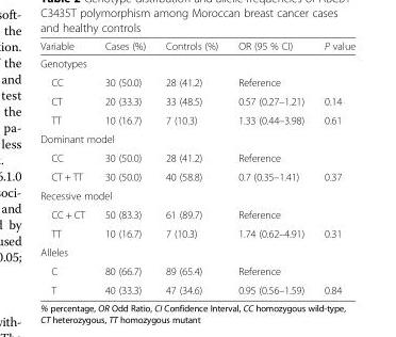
<table><thead><tr><td>Variable</td><td>Cases (%)</td><td>Controls (%)</td><td>OR (95 % CI)</td><td>P value</td></tr></thead><tbody><tr><td colspan="5">Genotypes</td></tr><tr><td>CC</td><td>30 (50.0)</td><td>28 (41.2)</td><td>Reference</td><td></td></tr><tr><td>CT</td><td>20 (33.3)</td><td>33 (48.5)</td><td>0.57 (0.27–1.21)</td><td>0.14</td></tr><tr><td>TT</td><td>10 (16.7)</td><td>7 (10.3)</td><td>1.33 (0.44–3.98)</td><td>0.61</td></tr><tr><td colspan="5">Dominant model</td></tr><tr><td>CC</td><td>30 (50.0)</td><td>28 (41.2)</td><td>Reference</td><td></td></tr><tr><td>CT + TT</td><td>30 (50.0)</td><td>40 (58.8)</td><td>0.7 (0.35–1.41)</td><td>0.37</td></tr><tr><td colspan="5">Recessive model</td></tr><tr><td>CC + CT</td><td>50 (83.3)</td><td>61 (89.7)</td><td>Reference</td><td></td></tr><tr><td>TT</td><td>10 (16.7)</td><td>7 (10.3)</td><td>1.74 (0.62–4.91)</td><td>0.31</td></tr><tr><td colspan="5">Alleles</td></tr><tr><td>C</td><td>80 (66.7)</td><td>89 (65.4)</td><td>Reference</td><td></td></tr><tr><td>T</td><td>40 (33.3)</td><td>47 (34.6)</td><td>0.95 (0.56–1.59)</td><td>0.84</td></tr></tbody></table>